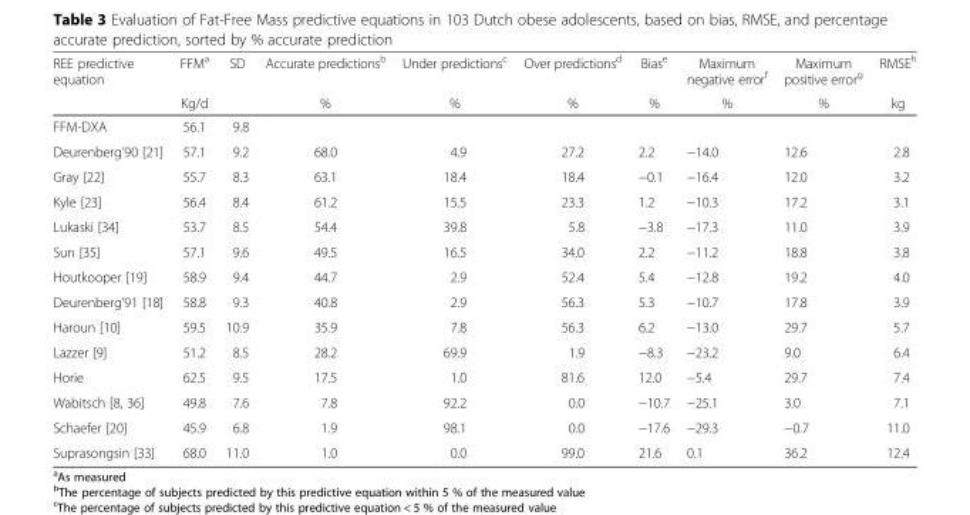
<table><thead><tr><td rowspan="2">REE predictive equation</td><td rowspan="2">FFM<sup>a</sup> Kg/d</td><td rowspan="2">SD</td><td rowspan="2">Accurate predictions<sup>b</sup> %</td><td rowspan="2">Under predictions<sup>c</sup> %</td><td rowspan="2">Over predictions<sup>d</sup> %</td><td rowspan="2">Bias<sup>e</sup> %</td><td rowspan="2">Maximum negative error<sup>f</sup> %</td><td rowspan="2">Maximum positive error<sup>g</sup> %</td><td rowspan="2">RMSE<sup>h</sup> kg</td></tr><tr></tr></thead><tbody><tr><td>FFM-DXA</td><td>56.1</td><td>9.8</td><td></td><td></td><td></td><td></td><td></td><td></td><td></td></tr><tr><td>Deurenberg’90 [21]</td><td>57.1</td><td>9.2</td><td>68.0</td><td>4.9</td><td>27.2</td><td>2.2</td><td>−14.0</td><td>12.6</td><td>2.8</td></tr><tr><td>Gray [22]</td><td>55.7</td><td>8.3</td><td>63.1</td><td>18.4</td><td>18.4</td><td>−0.1</td><td>−16.4</td><td>12.0</td><td>3.2</td></tr><tr><td>Kyle [23]</td><td>56.4</td><td>8.4</td><td>61.2</td><td>15.5</td><td>23.3</td><td>1.2</td><td>−10.3</td><td>17.2</td><td>3.1</td></tr><tr><td>Lukaski [34]</td><td>53.7</td><td>8.5</td><td>54.4</td><td>39.8</td><td>5.8</td><td>−3.8</td><td>−17.3</td><td>11.0</td><td>3.9</td></tr><tr><td>Sun [35]</td><td>57.1</td><td>9.6</td><td>49.5</td><td>16.5</td><td>34.0</td><td>2.2</td><td>−11.2</td><td>18.8</td><td>3.8</td></tr><tr><td>Houtkooper [19]</td><td>58.9</td><td>9.4</td><td>44.7</td><td>2.9</td><td>52.4</td><td>5.4</td><td>−12.8</td><td>19.2</td><td>4.0</td></tr><tr><td>Deurenberg’91 [18]</td><td>58.8</td><td>9.3</td><td>40.8</td><td>2.9</td><td>56.3</td><td>5.3</td><td>−10.7</td><td>17.8</td><td>3.9</td></tr><tr><td>Haroun [10]</td><td>59.5</td><td>10.9</td><td>35.9</td><td>7.8</td><td>56.3</td><td>6.2</td><td>−13.0</td><td>29.7</td><td>5.7</td></tr><tr><td>Lazzer [9]</td><td>51.2</td><td>8.5</td><td>28.2</td><td>69.9</td><td>1.9</td><td>−8.3</td><td>−23.2</td><td>9.0</td><td>6.4</td></tr><tr><td>Horie</td><td>62.5</td><td>9.5</td><td>17.5</td><td>1.0</td><td>81.6</td><td>12.0</td><td>−5.4</td><td>29.7</td><td>7.4</td></tr><tr><td>Wabitsch [8, 36]</td><td>49.8</td><td>7.6</td><td>7.8</td><td>92.2</td><td>0.0</td><td>−10.7</td><td>−25.1</td><td>3.0</td><td>7.1</td></tr><tr><td>Schaefer [20]</td><td>45.9</td><td>6.8</td><td>1.9</td><td>98.1</td><td>0.0</td><td>−17.6</td><td>−29.3</td><td>−0.7</td><td>11.0</td></tr><tr><td>Suprasongsin [33]</td><td>68.0</td><td>11.0</td><td>1.0</td><td>0.0</td><td>99.0</td><td>21.6</td><td>0.1</td><td>36.2</td><td>12.4</td></tr></tbody></table>